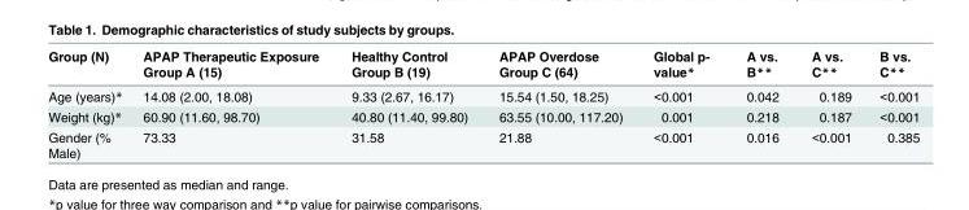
<table><thead><tr><td>Group (N)</td><td>APAP Therapeutic Exposure Group A (15)</td><td>Healthy Control Group B (19)</td><td>APAP Overdose Group C (64)</td><td>Global p- value*</td><td>A vs. B**</td><td>A vs. C**</td><td>B vs. C**</td></tr></thead><tbody><tr><td>Age (years)*</td><td>14.08 (2.00, 18.08)</td><td>9.33 (2.67, 16.17)</td><td>15.54 (1.50, 18.25)</td><td>&lt;0.001</td><td>0.042</td><td>0.189</td><td>&lt;0.001</td></tr><tr><td>Weight (kg)*</td><td>60.90 (11.60, 98.70)</td><td>40.80 (11.40, 99.80)</td><td>63.55 (10.00, 117.20)</td><td>0.001</td><td>0.218</td><td>0.187</td><td>&lt;0.001</td></tr><tr><td>Gender (% Male)</td><td>73.33</td><td>31.58</td><td>21.88</td><td>&lt;0.001</td><td>0.016</td><td>&lt;0.001</td><td>0.385</td></tr></tbody></table>